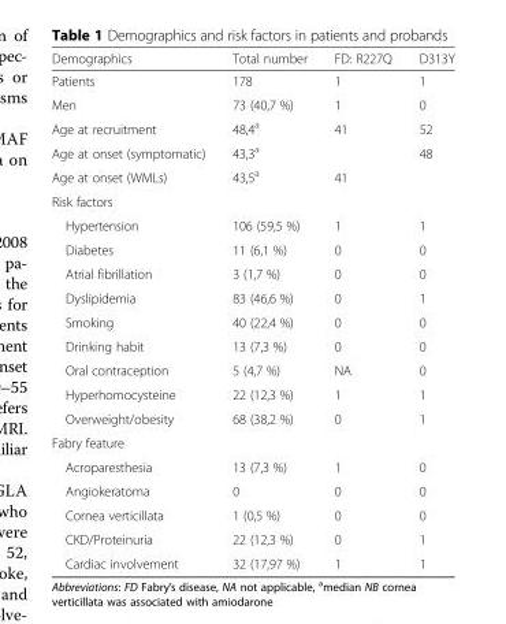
<table><thead><tr><td>Demographics</td><td>Total number</td><td>FD: R227Q</td><td>D313Y</td></tr></thead><tbody><tr><td>Patients</td><td>178</td><td>1</td><td>1</td></tr><tr><td>Men</td><td>73 (40,7 %)</td><td>1</td><td>0</td></tr><tr><td>Age at recruitment</td><td>48,4<sup>a</sup></td><td>41</td><td>52</td></tr><tr><td>Age at onset (symptomatic)</td><td>43,3<sup>a</sup></td><td></td><td>48</td></tr><tr><td>Age at onset (WMLs)</td><td>43,5<sup>a</sup></td><td>41</td><td></td></tr><tr><td colspan="4">Risk factors</td></tr><tr><td>Hypertension</td><td>106 (59,5 %)</td><td>1</td><td>1</td></tr><tr><td>Diabetes</td><td>11 (6,1 %)</td><td>0</td><td>0</td></tr><tr><td>Atrial fibrillation</td><td>3 (1,7 %)</td><td>0</td><td>0</td></tr><tr><td>Dyslipidemia</td><td>83 (46,6 %)</td><td>0</td><td>1</td></tr><tr><td>Smoking</td><td>40 (22,4 %)</td><td>0</td><td>0</td></tr><tr><td>Drinking habit</td><td>13 (7,3 %)</td><td>0</td><td>0</td></tr><tr><td>Oral contraception</td><td>5 (4,7 %)</td><td>NA</td><td>0</td></tr><tr><td>Hyperhomocysteine</td><td>22 (12,3 %)</td><td>1</td><td>1</td></tr><tr><td>Overweight/obesity</td><td>68 (38,2 %)</td><td>0</td><td>1</td></tr><tr><td colspan="4">Fabry feature</td></tr><tr><td>Acroparesthesia</td><td>13 (7,3 %)</td><td>1</td><td>0</td></tr><tr><td>Angiokeratoma</td><td>0</td><td>0</td><td>0</td></tr><tr><td>Cornea verticillata</td><td>1 (0,5 %)</td><td>0</td><td>0</td></tr><tr><td>CKD/Proteinuria</td><td>22 (12,3 %)</td><td>0</td><td>1</td></tr><tr><td>Cardiac involvement</td><td>32 (17,97 %)</td><td>1</td><td>1</td></tr></tbody></table>